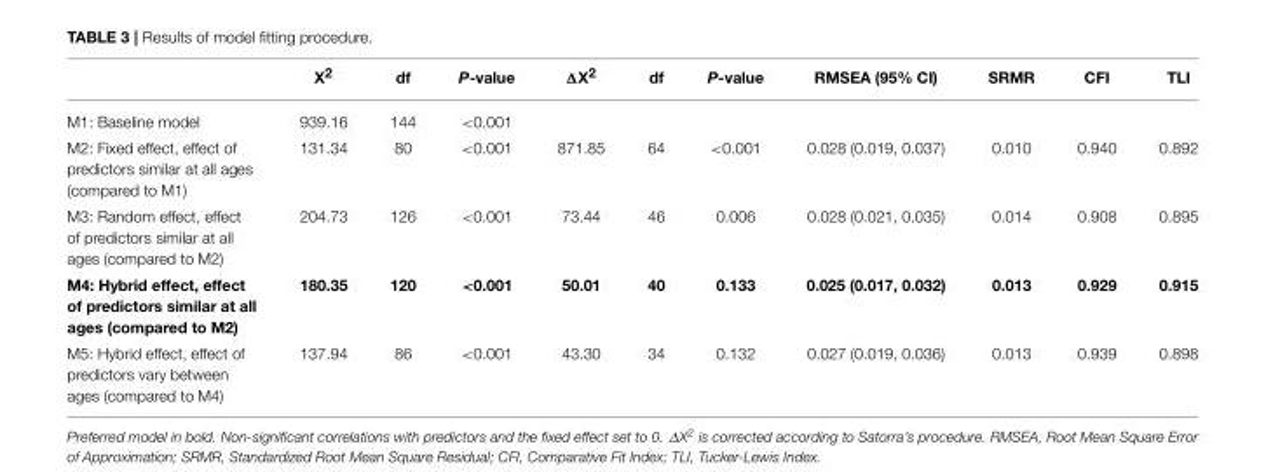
<table><thead><tr><td></td><td>X<sup>2</sup></td><td>df</td><td>P-value</td><td>ΔX<sup>2</sup></td><td>df</td><td>P-value</td><td>RMSEA (95% CI)</td><td>SRMR</td><td>CFI</td><td>TLI</td></tr></thead><tbody><tr><td>M1: Baseline model</td><td>939.16</td><td>144</td><td>&lt;0.001</td><td></td><td></td><td></td><td></td><td></td><td></td><td></td></tr><tr><td>M2: Fixed effect, effect of predictors similar at all ages (compared to M1)</td><td>131.34</td><td>80</td><td>&lt;0.001</td><td>871.85</td><td>64</td><td>&lt;0.001</td><td>0.028 (0.019, 0.037)</td><td>0.010</td><td>0.940</td><td>0.892</td></tr><tr><td>M3: Random effect, effect of predictors similar at all ages (compared to M2)</td><td>204.73</td><td>126</td><td>&lt;0.001</td><td>73.44</td><td>46</td><td>0.006</td><td>0.028 (0.021, 0.035)</td><td>0.014</td><td>0.908</td><td>0.895</td></tr><tr><td>M4: Hybrid effect, effect of predictors similar at all ages (compared to M2)</td><td>180.35</td><td>120</td><td>&lt;0.001</td><td>50.01</td><td>40</td><td>0.133</td><td>0.025 (0.017, 0.032)</td><td>0.013</td><td>0.929</td><td>0.915</td></tr><tr><td>M5: Hybrid effect, effect of predictors vary between ages (compared to M4)</td><td>137.94</td><td>86</td><td>&lt;0.001</td><td>43.30</td><td>34</td><td>0.132</td><td>0.027 (0.019, 0.036)</td><td>0.013</td><td>0.939</td><td>0.898</td></tr></tbody></table>